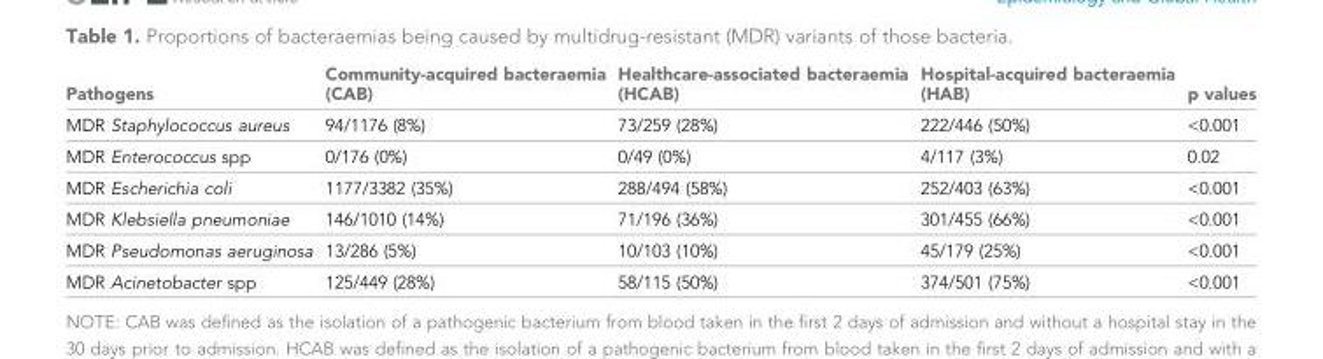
<table><thead><tr><td>Pathogens</td><td>Community-acquired bacteraemia (CAB)</td><td>Healthcare-associated bacteraemia (HCAB)</td><td>Hospital-acquired bacteraemia (HAB)</td><td>p values</td></tr></thead><tbody><tr><td>MDR Staphylococcus aureus</td><td>94/1176 (8%)</td><td>73/259 (28%)</td><td>222/446 (50%)</td><td>&lt;0.001</td></tr><tr><td>MDR Enterococcus spp</td><td>0/176 (0%)</td><td>0/49 (0%)</td><td>4/117 (3%)</td><td>0.02</td></tr><tr><td>MDR Escherichia coli</td><td>1177/3382 (35%)</td><td>288/494 (58%)</td><td>252/403 (63%)</td><td>&lt;0.001</td></tr><tr><td>MDR Klebsiella pneumoniae</td><td>146/1010 (14%)</td><td>71/196 (36%)</td><td>301/455 (66%)</td><td>&lt;0.001</td></tr><tr><td>MDR Pseudomonas aeruginosa</td><td>13/286 (5%)</td><td>10/103 (10%)</td><td>45/179 (25%)</td><td>&lt;0.001</td></tr><tr><td>MDR Acinetobacter spp</td><td>125/449 (28%)</td><td>58/115 (50%)</td><td>374/501 (75%)</td><td>&lt;0.001</td></tr></tbody></table>